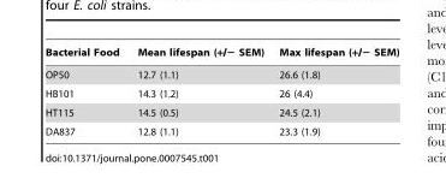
<table><thead><tr><td>Bacterial Food</td><td>Mean lifespan (+/− SEM)</td><td>Max lifespan (+/− SEM)</td></tr></thead><tbody><tr><td>OP50</td><td>12.7 (1.1)</td><td>26.6 (1.8)</td></tr><tr><td>HB101</td><td>14.3 (1.2)</td><td>26 (4.4)</td></tr><tr><td>HT115</td><td>14.5 (0.5)</td><td>24.5 (2.1)</td></tr><tr><td>DA837</td><td>12.8 (1.1)</td><td>23.3 (1.9)</td></tr></tbody></table>